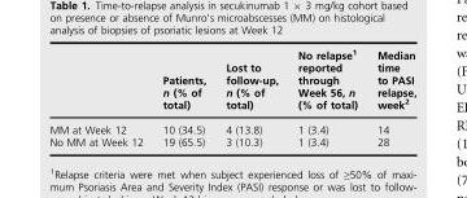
<table><thead><tr><td></td><td>Patients, n (% of total)</td><td>Lost to follow-up, n (% of total)</td><td>No relapse<sup>1</sup> reported through Week 56, n (% of total)</td><td>Median time to PASI relapse, week<sup>2</sup></td></tr></thead><tbody><tr><td>MM at Week 12</td><td>10 (34.5)</td><td>4 (13.8)</td><td>1 (3.4)</td><td>14</td></tr><tr><td>No MM at Week 12</td><td>19 (65.5)</td><td>3 (10.3)</td><td>1 (3.4)</td><td>28</td></tr></tbody></table>